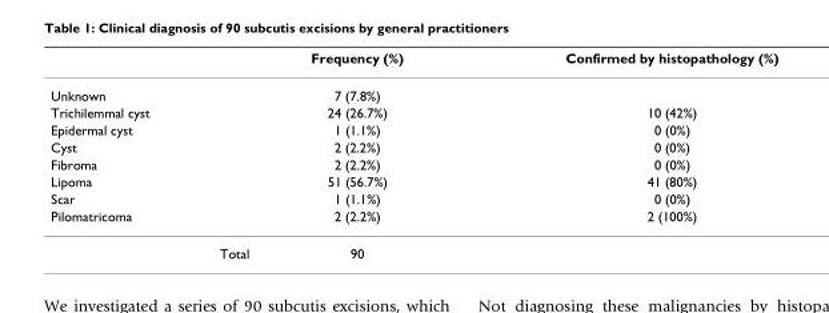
<table><thead><tr><td></td><td>Frequency (%)</td><td>Confirmed by histopathology (%)</td></tr></thead><tbody><tr><td>Unknown</td><td>7 (7.8%)</td><td></td></tr><tr><td>Trichilemmal cyst</td><td>24 (26.7%)</td><td>10 (42%)</td></tr><tr><td>Epidermal cyst</td><td>1 (1.1%)</td><td>0 (0%)</td></tr><tr><td>Cyst</td><td>2 (2.2%)</td><td>0 (0%)</td></tr><tr><td>Fibroma</td><td>2 (2.2%)</td><td>0 (0%)</td></tr><tr><td>Lipoma</td><td>51 (56.7%)</td><td>41 (80%)</td></tr><tr><td>Scar</td><td>1 (1.1%)</td><td>0 (0%)</td></tr><tr><td>Pilomatricoma</td><td>2 (2.2%)</td><td>2 (100%)</td></tr><tr><td>Total</td><td>90</td><td></td></tr></tbody></table>